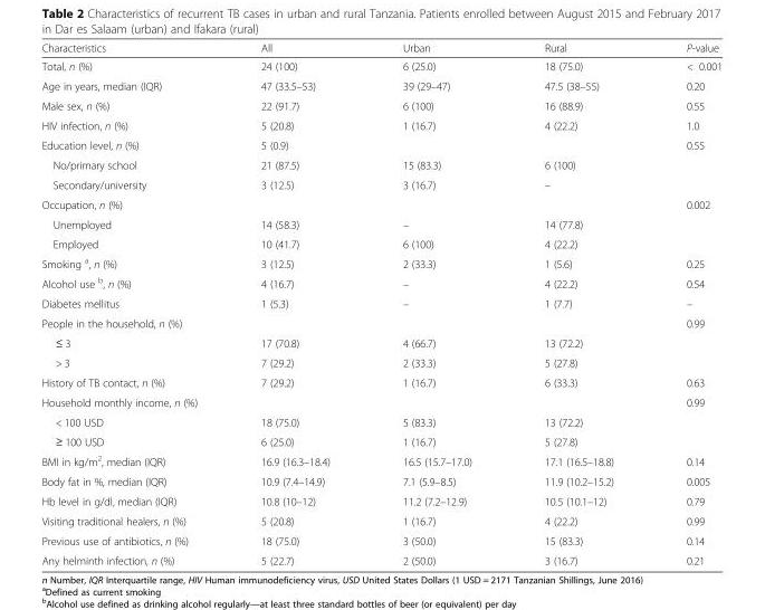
<table><thead><tr><td>Characteristics</td><td>All</td><td>Urban</td><td>Rural</td><td>P-value</td></tr></thead><tbody><tr><td>Total, n (%)</td><td>24 (100)</td><td>6 (25.0)</td><td>18 (75.0)</td><td>&lt; 0.001</td></tr><tr><td>Age in years, median (IQR)</td><td>47 (33.5–53)</td><td>39 (29–47)</td><td>47.5 (38–55)</td><td>0.20</td></tr><tr><td>Male sex, n (%)</td><td>22 (91.7)</td><td>6 (100)</td><td>16 (88.9)</td><td>0.55</td></tr><tr><td>HIV infection, n (%)</td><td>5 (20.8)</td><td>1 (16.7)</td><td>4 (22.2)</td><td>1.0</td></tr><tr><td>Education level, n (%)</td><td>5 (0.9)</td><td></td><td></td><td>0.55</td></tr><tr><td>No/primary school</td><td>21 (87.5)</td><td>15 (83.3)</td><td>6 (100)</td><td></td></tr><tr><td>Secondary/university</td><td>3 (12.5)</td><td>3 (16.7)</td><td>–</td><td></td></tr><tr><td colspan="4">Occupation, n (%)</td><td>0.002</td></tr><tr><td>Unemployed</td><td>14 (58.3)</td><td>–</td><td>14 (77.8)</td><td></td></tr><tr><td>Employed</td><td>10 (41.7)</td><td>6 (100)</td><td>4 (22.2)</td><td></td></tr><tr><td>Smoking <sup>a</sup>, n (%)</td><td>3 (12.5)</td><td>2 (33.3)</td><td>1 (5.6)</td><td>0.25</td></tr><tr><td>Alcohol use <sup>b</sup>, n (%)</td><td>4 (16.7)</td><td>–</td><td>4 (22.2)</td><td>0.54</td></tr><tr><td>Diabetes mellitus</td><td>1 (5.3)</td><td>–</td><td>1 (7.7)</td><td>–</td></tr><tr><td colspan="4">People in the household, n (%)</td><td>0.99</td></tr><tr><td>≤ 3</td><td>17 (70.8)</td><td>4 (66.7)</td><td>13 (72.2)</td><td></td></tr><tr><td>&gt; 3</td><td>7 (29.2)</td><td>2 (33.3)</td><td>5 (27.8)</td><td></td></tr><tr><td>History of TB contact, n (%)</td><td>7 (29.2)</td><td>1 (16.7)</td><td>6 (33.3)</td><td>0.63</td></tr><tr><td colspan="4">Household monthly income, n (%)</td><td>0.99</td></tr><tr><td>&lt; 100 USD</td><td>18 (75.0)</td><td>5 (83.3)</td><td>13 (72.2)</td><td></td></tr><tr><td>≥ 100 USD</td><td>6 (25.0)</td><td>1 (16.7)</td><td>5 (27.8)</td><td></td></tr><tr><td>BMI in kg/m<sup>2</sup>, median (IQR)</td><td>16.9 (16.3–18.4)</td><td>16.5 (15.7–17.0)</td><td>17.1 (16.5–18.8)</td><td>0.14</td></tr><tr><td>Body fat in %, median (IQR)</td><td>10.9 (7.4–14.9)</td><td>7.1 (5.9–8.5)</td><td>11.9 (10.2–15.2)</td><td>0.005</td></tr><tr><td>Hb level in g/dl, median (IQR)</td><td>10.8 (10–12)</td><td>11.2 (7.2–12.9)</td><td>10.5 (10.1–12)</td><td>0.79</td></tr><tr><td>Visiting traditional healers, n (%)</td><td>5 (20.8)</td><td>1 (16.7)</td><td>4 (22.2)</td><td>0.99</td></tr><tr><td>Previous use of antibiotics, n (%)</td><td>18 (75.0)</td><td>3 (50.0)</td><td>15 (83.3)</td><td>0.14</td></tr><tr><td>Any helminth infection, n (%)</td><td>5 (22.7)</td><td>2 (50.0)</td><td>3 (16.7)</td><td>0.21</td></tr></tbody></table>